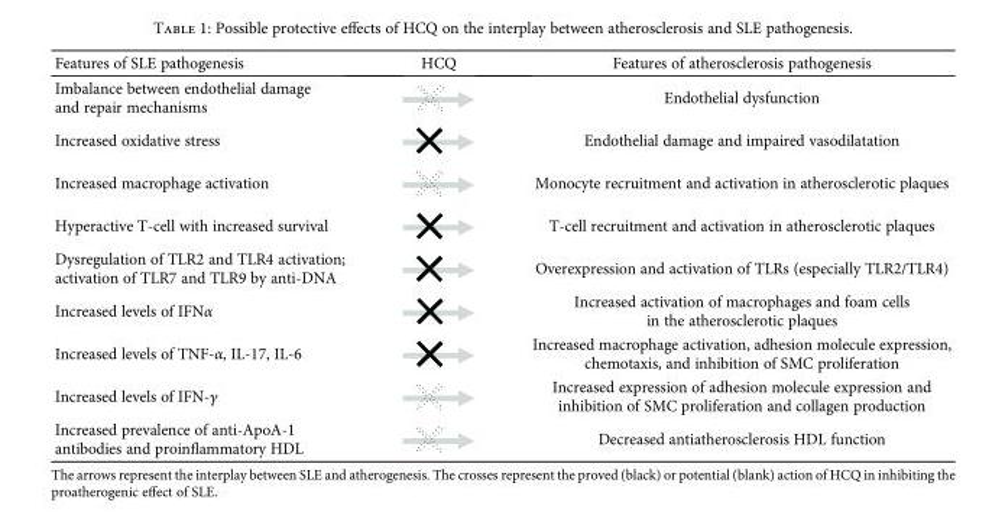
<table><thead><tr><td>Features of SLE pathogenesis</td><td>HCQ</td><td>Features of atherosclerosis pathogenesis</td></tr></thead><tbody><tr><td>Imbalance between endothelial damage and repair mechanisms</td><td></td><td>Endothelial dysfunction</td></tr><tr><td>Increased oxidative stress</td><td></td><td>Endothelial damage and impaired vasodilatation</td></tr><tr><td>Increased macrophage activation</td><td></td><td>Monocyte recruitment and activation in atherosclerotic plaques</td></tr><tr><td>Hyperactive T-cell with increased survival</td><td></td><td>T-cell recruitment and activation in atherosclerotic plaques</td></tr><tr><td>Dysregulation of TLR2 and TLR4 activation; activation of TLR7 and TLR9 by anti-DNA</td><td></td><td>Overexpression and activation of TLRs (especially TLR2/TLR4)</td></tr><tr><td>Increased levels of IFNα</td><td></td><td>Increased activation of macrophages and foam cells in the atherosclerotic plaques</td></tr><tr><td>Increased levels of TNF-α, IL-17, IL-6</td><td></td><td>Increased macrophage activation, adhesion molecule expression, chemotaxis, and inhibition of SMC proliferation</td></tr><tr><td>Increased levels of IFN-γ</td><td></td><td>Increased expression of adhesion molecule expression and inhibition of SMC proliferation and collagen production</td></tr><tr><td>Increased prevalence of anti-ApoA-1 antibodies and proinflammatory HDL</td><td></td><td>Decreased antiatherosclerosis HDL function</td></tr></tbody></table>